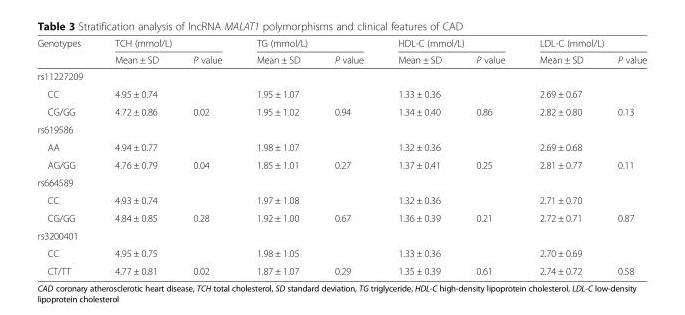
<table><thead><tr><td rowspan="2">Genotypes</td><td colspan="2">TCH (mmol/L)</td><td colspan="2">TG (mmol/L)</td><td colspan="2">HDL-C (mmol/L)</td><td colspan="2">LDL-C (mmol/L)</td></tr><tr><td>Mean ± SD</td><td>P value</td><td>Mean ± SD</td><td>P value</td><td>Mean ± SD</td><td>P value</td><td>Mean ± SD</td><td>P value</td></tr></thead><tbody><tr><td colspan="9">rs11227209</td></tr><tr><td>CC</td><td>4.95 ± 0.74</td><td></td><td>1.95 ± 1.07</td><td></td><td>1.33 ± 0.36</td><td></td><td>2.69 ± 0.67</td><td></td></tr><tr><td>CG/GG</td><td>4.72 ± 0.86</td><td>0.02</td><td>1.95 ± 1.02</td><td>0.94</td><td>1.34 ± 0.40</td><td>0.86</td><td>2.82 ± 0.80</td><td>0.13</td></tr><tr><td colspan="9">rs619586</td></tr><tr><td>AA</td><td>4.94 ± 0.77</td><td></td><td>1.98 ± 1.07</td><td></td><td>1.32 ± 0.36</td><td></td><td>2.69 ± 0.68</td><td></td></tr><tr><td>AG/GG</td><td>4.76 ± 0.79</td><td>0.04</td><td>1.85 ± 1.01</td><td>0.27</td><td>1.37 ± 0.41</td><td>0.25</td><td>2.81 ± 0.77</td><td>0.11</td></tr><tr><td colspan="9">rs664589</td></tr><tr><td>CC</td><td>4.93 ± 0.74</td><td></td><td>1.97 ± 1.08</td><td></td><td>1.32 ± 0.36</td><td></td><td>2.71 ± 0.70</td><td></td></tr><tr><td>CG/GG</td><td>4.84 ± 0.85</td><td>0.28</td><td>1.92 ± 1.00</td><td>0.67</td><td>1.36 ± 0.39</td><td>0.21</td><td>2.72 ± 0.71</td><td>0.87</td></tr><tr><td colspan="9">rs3200401</td></tr><tr><td>CC</td><td>4.95 ± 0.75</td><td></td><td>1.98 ± 1.05</td><td></td><td>1.33 ± 0.36</td><td></td><td>2.70 ± 0.69</td><td></td></tr><tr><td>CT/TT</td><td>4.77 ± 0.81</td><td>0.02</td><td>1.87 ± 1.07</td><td>0.29</td><td>1.35 ± 0.39</td><td>0.61</td><td>2.74 ± 0.72</td><td>0.58</td></tr></tbody></table>